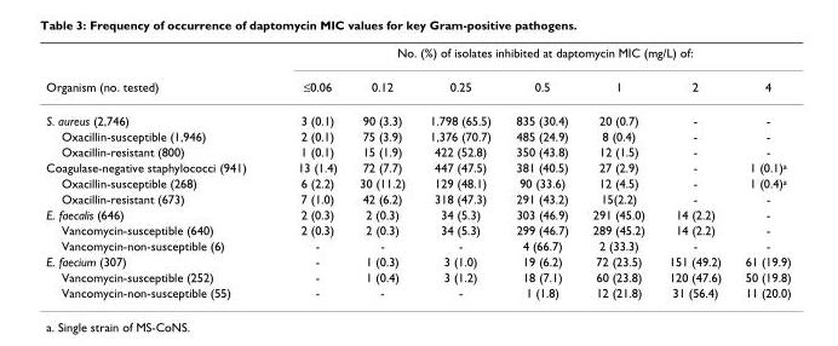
<table><thead><tr><td rowspan="2">Organism (no. tested)</td><td colspan="7">No. (%) of isolates inhibited at daptomycin MIC (mg/L) of:</td></tr><tr><td>≤0.06</td><td>0.12</td><td>0.25</td><td>0.5</td><td>1</td><td>2</td><td>4</td></tr></thead><tbody><tr><td>S. aureus (2,746)</td><td>3 (0.1)</td><td>90 (3.3)</td><td>1.798 (65.5)</td><td>835 (30.4)</td><td>20 (0.7)</td><td>-</td><td>-</td></tr><tr><td>Oxacillin-susceptible (1,946)</td><td>2 (0.1)</td><td>75 (3.9)</td><td>1,376 (70.7)</td><td>485 (24.9)</td><td>8 (0.4)</td><td>-</td><td>-</td></tr><tr><td>Oxacillin-resistant (800)</td><td>1 (0.1)</td><td>15 (1.9)</td><td>422 (52.8)</td><td>350 (43.8)</td><td>12 (1.5)</td><td>-</td><td>-</td></tr><tr><td>Coagulase-negative staphylococci (941)</td><td>13 (1.4)</td><td>72 (7.7)</td><td>447 (47.5)</td><td>381 (40.5)</td><td>27 (2.9)</td><td>-</td><td>1 (0.1)<sup>a</sup></td></tr><tr><td>Oxacillin-susceptible (268)</td><td>6 (2.2)</td><td>30 (11.2)</td><td>129 (48.1)</td><td>90 (33.6)</td><td>12 (4.5)</td><td>-</td><td>1 (0.4)<sup>a</sup></td></tr><tr><td>Oxacillin-resistant (673)</td><td>7 (1.0)</td><td>42 (6.2)</td><td>318 (47.3)</td><td>291 (43.2)</td><td>15(2.2)</td><td>-</td><td>-</td></tr><tr><td>E. faecalis (646)</td><td>2 (0.3)</td><td>2 (0.3)</td><td>34 (5.3)</td><td>303 (46.9)</td><td>291 (45.0)</td><td>14 (2.2)</td><td>-</td></tr><tr><td>Vancomycin-susceptible (640)</td><td>2 (0.3)</td><td>2 (0.3)</td><td>34 (5.3)</td><td>299 (46.7)</td><td>289 (45.2)</td><td>14 (2.2)</td><td>-</td></tr><tr><td>Vancomycin-non-susceptible (6)</td><td>-</td><td>-</td><td>-</td><td>4 (66.7)</td><td>2 (33.3)</td><td>-</td><td>-</td></tr><tr><td>E. faecium (307)</td><td>-</td><td>1 (0.3)</td><td>3 (1.0)</td><td>19 (6.2)</td><td>72 (23.5)</td><td>151 (49.2)</td><td>61 (19.9)</td></tr><tr><td>Vancomycin-susceptible (252)</td><td>-</td><td>1 (0.4)</td><td>3 (1.2)</td><td>18 (7.1)</td><td>60 (23.8)</td><td>120 (47.6)</td><td>50 (19.8)</td></tr><tr><td>Vancomycin-non-susceptible (55)</td><td>-</td><td>-</td><td>-</td><td>1 (1.8)</td><td>12 (21.8)</td><td>31 (56.4)</td><td>11 (20.0)</td></tr></tbody></table>